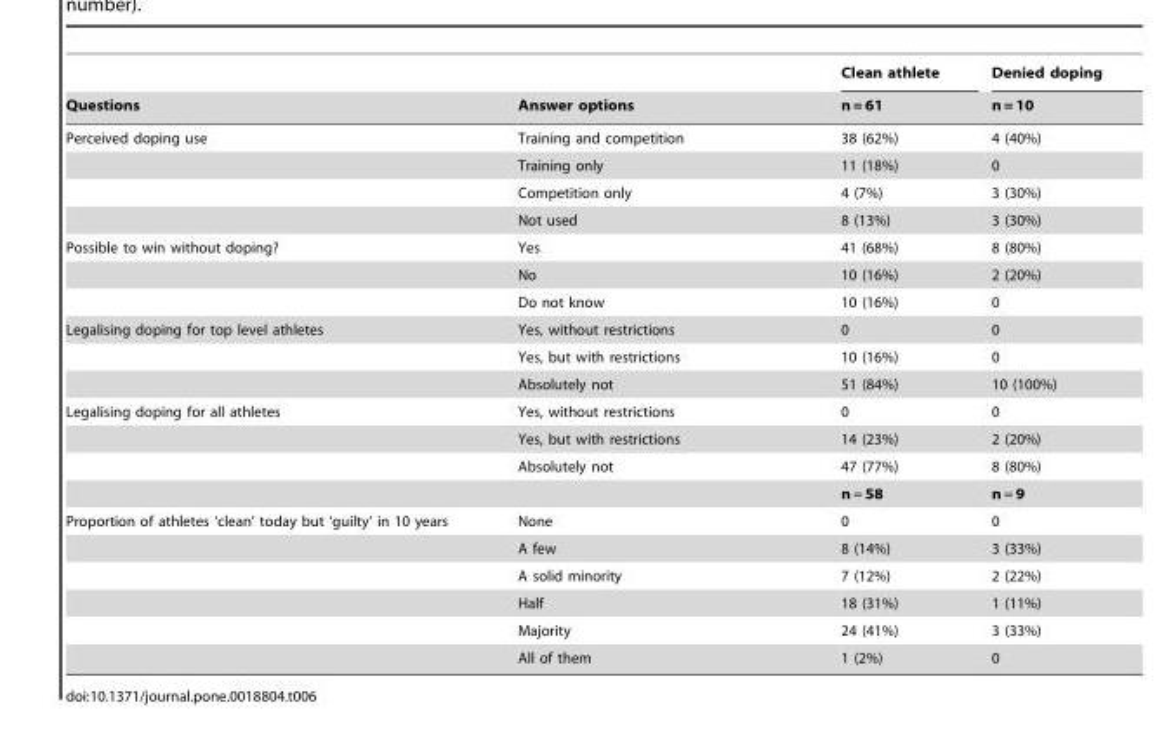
<table><thead><tr><td rowspan="2">Questions</td><td rowspan="2">Answer options</td><td rowspan="2">Clean athlete n = 61</td><td rowspan="2">Denied doping n = 10</td></tr><tr></tr></thead><tbody><tr><td rowspan="4">Perceived doping use</td><td>Training and competition</td><td>38 (62%)</td><td>4 (40%)</td></tr><tr><td>Training only</td><td>11 (18%)</td><td>0</td></tr><tr><td>Competition only</td><td>4 (7%)</td><td>3 (30%)</td></tr><tr><td>Not used</td><td>8 (13%)</td><td>3 (30%)</td></tr><tr><td rowspan="3">Possible to win without doping?</td><td>Yes</td><td>41 (68%)</td><td>8 (80%)</td></tr><tr><td>No</td><td>10 (16%)</td><td>2 (20%)</td></tr><tr><td>Do not know</td><td>10 (16%)</td><td>0</td></tr><tr><td rowspan="3">Legalising doping for top level athletes</td><td>Yes, without restrictions</td><td>0</td><td>0</td></tr><tr><td>Yes, but with restrictions</td><td>10 (16%)</td><td>0</td></tr><tr><td>Absolutely not</td><td>51 (84%)</td><td>10 (100%)</td></tr><tr><td rowspan="3">Legalising doping for all athletes</td><td>Yes, without restrictions</td><td>0</td><td>0</td></tr><tr><td>Yes, but with restrictions</td><td>14 (23%)</td><td>2 (20%)</td></tr><tr><td>Absolutely not</td><td>47 (77%)</td><td>8 (80%)</td></tr><tr><td colspan="2"></td><td>n = 58</td><td>n = 9</td></tr><tr><td rowspan="6">Proportion of athletes ‘clean’ today but ‘guilty’ in 10 years</td><td>None</td><td>0</td><td>0</td></tr><tr><td>A few</td><td>8 (14%)</td><td>3 (33%)</td></tr><tr><td>A solid minority</td><td>7 (12%)</td><td>2 (22%)</td></tr><tr><td>Half</td><td>18 (31%)</td><td>1 (11%)</td></tr><tr><td>Majority</td><td>24 (41%)</td><td>3 (33%)</td></tr><tr><td>All of them</td><td>1 (2%)</td><td>0</td></tr></tbody></table>